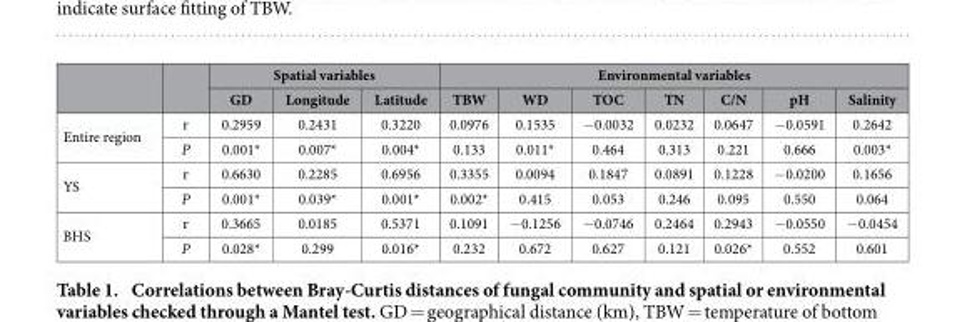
<table><thead><tr><td rowspan="2"></td><td rowspan="2"></td><td colspan="3">Spatial variables</td><td colspan="7">Environmental variables</td></tr><tr><td>GD</td><td>Longitude</td><td>Latitude</td><td>TBW</td><td>WD</td><td>TOC</td><td>TN</td><td>C/N</td><td>pH</td><td>Salinity</td></tr></thead><tbody><tr><td rowspan="2">Entire region</td><td>r</td><td>0.2959</td><td>0.2431</td><td>0.3220</td><td>0.0976</td><td>0.1535</td><td>− 0.0032</td><td>0.0232</td><td>0.0647</td><td>− 0.0591</td><td>0.2642</td></tr><tr><td>P</td><td>0.001*</td><td>0.007*</td><td>0.004*</td><td>0.133</td><td>0.011*</td><td>0.464</td><td>0.313</td><td>0.221</td><td>0.666</td><td>0.003*</td></tr><tr><td rowspan="2">YS</td><td>r</td><td>0.6630</td><td>0.2285</td><td>0.6956</td><td>0.3355</td><td>0.0094</td><td>0.1847</td><td>0.0891</td><td>0.1228</td><td>− 0.0200</td><td>0.1656</td></tr><tr><td>P</td><td>0.001*</td><td>0.039*</td><td>0.001*</td><td>0.002*</td><td>0.415</td><td>0.053</td><td>0.246</td><td>0.095</td><td>0.550</td><td>0.064</td></tr><tr><td rowspan="2">BHS</td><td>r</td><td>0.3665</td><td>0.0185</td><td>0.5371</td><td>0.1091</td><td>− 0.1256</td><td>− 0.0746</td><td>0.2464</td><td>0.2943</td><td>− 0.0550</td><td>− 0.0454</td></tr><tr><td>P</td><td>0.028*</td><td>0.299</td><td>0.016*</td><td>0.232</td><td>0.672</td><td>0.627</td><td>0.121</td><td>0.026*</td><td>0.552</td><td>0.601</td></tr></tbody></table>